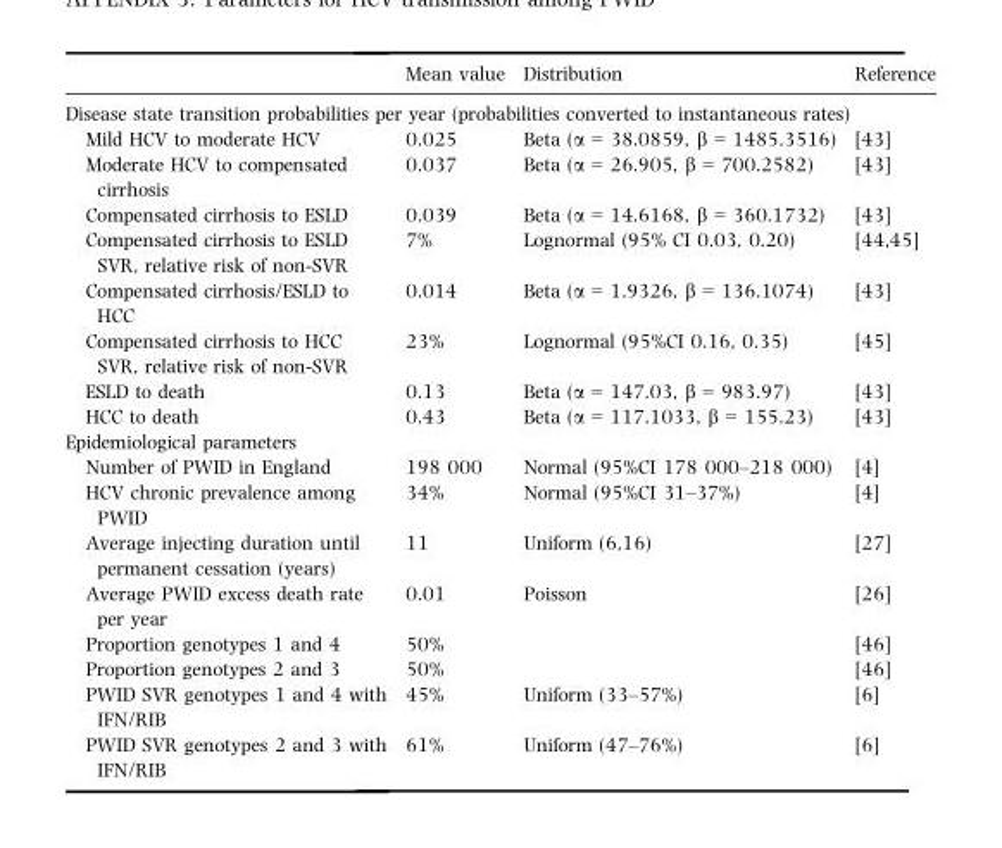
<table><thead><tr><td></td><td>Mean value</td><td>Distribution</td><td>Reference</td></tr></thead><tbody><tr><td colspan="4">Disease state transition probabilities per year (probabilities converted to instantaneous rates)</td></tr><tr><td>Mild HCV to moderate HCV</td><td>0.025</td><td>Beta (α = 38.0859, β = 1485.3516)</td><td>[43]</td></tr><tr><td>Moderate HCV to compensated cirrhosis</td><td>0.037</td><td>Beta (α = 26.905, β = 700.2582)</td><td>[43]</td></tr><tr><td>Compensated cirrhosis to ESLD</td><td>0.039</td><td>Beta (α = 14.6168, β = 360.1732)</td><td>[43]</td></tr><tr><td>Compensated cirrhosis to ESLD SVR, relative risk of non-SVR</td><td>7%</td><td>Lognormal (95% CI 0.03, 0.20)</td><td>[44,45]</td></tr><tr><td>Compensated cirrhosis/ESLD to HCC</td><td>0.014</td><td>Beta (α = 1.9326, β = 136.1074)</td><td>[43]</td></tr><tr><td>Compensated cirrhosis to HCC SVR, relative risk of non-SVR</td><td>23%</td><td>Lognormal (95%CI 0.16, 0.35)</td><td>[45]</td></tr><tr><td>ESLD to death</td><td>0.13</td><td>Beta (α = 147.03, β = 983.97)</td><td>[43]</td></tr><tr><td>HCC to death</td><td>0.43</td><td>Beta (α = 117.1033, β = 155.23)</td><td>[43]</td></tr><tr><td colspan="4">Epidemiological parameters</td></tr><tr><td>Number of PWID in England</td><td>198 000</td><td>Normal (95%CI 178 000–218 000)</td><td>[4]</td></tr><tr><td>HCV chronic prevalence among PWID</td><td>34%</td><td>Normal (95%CI 31–37%)</td><td>[4]</td></tr><tr><td>Average injecting duration until permanent cessation (years)</td><td>11</td><td>Uniform (6,16)</td><td>[27]</td></tr><tr><td>Average PWID excess death rate per year</td><td>0.01</td><td>Poisson</td><td>[26]</td></tr><tr><td>Proportion genotypes 1 and 4</td><td>50%</td><td></td><td>[46]</td></tr><tr><td>Proportion genotypes 2 and 3</td><td>50%</td><td></td><td>[46]</td></tr><tr><td>PWID SVR genotypes 1 and 4 with IFN/RIB</td><td>45%</td><td>Uniform (33–57%)</td><td>[6]</td></tr><tr><td>PWID SVR genotypes 2 and 3 with IFN/RIB</td><td>61%</td><td>Uniform (47–76%)</td><td>[6]</td></tr></tbody></table>